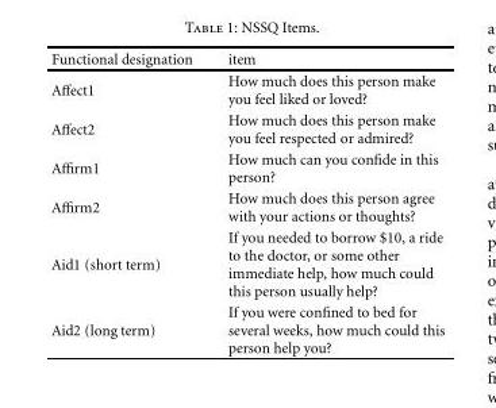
<table><thead><tr><td>Functional designation</td><td>item</td></tr></thead><tbody><tr><td>Affect1</td><td>How much does this person make you feel liked or loved?</td></tr><tr><td>Affect2</td><td>How much does this person make you feel respected or admired?</td></tr><tr><td>Affirm1</td><td>How much can you confide in this person?</td></tr><tr><td>Affirm2</td><td>How much does this person agree with your actions or thoughts?</td></tr><tr><td>Aid1 (short term)</td><td>If you needed to borrow $10, a ride to the doctor, or some other immediate help, how much could this person usually help?</td></tr><tr><td>Aid2 (long term)</td><td>If you were confined to bed for several weeks, how much could this person help you?</td></tr></tbody></table>